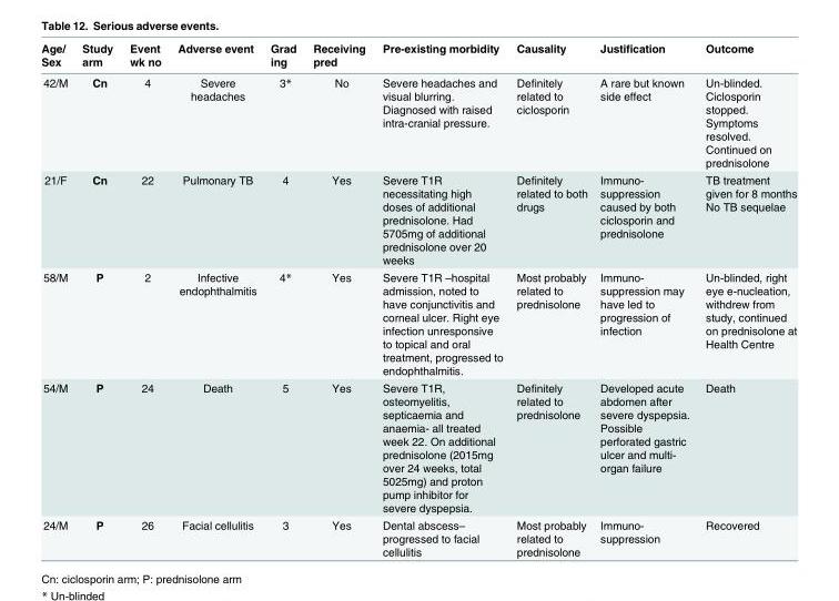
<table><thead><tr><td>Age/ Sex</td><td>Study arm</td><td>Event wk no</td><td>Adverse event</td><td>Grad ing</td><td>Receiving pred</td><td>Pre-existing morbidity</td><td>Causality</td><td>Justification</td><td>Outcome</td></tr></thead><tbody><tr><td>42/M</td><td>Cn</td><td>4</td><td>Severe headaches</td><td>3*</td><td>No</td><td>Severe headaches and visual blurring. Diagnosed with raised intra-cranial pressure.</td><td>Definitely related to ciclosporin</td><td>A rare but known side effect</td><td>Un-blinded. Ciclosporin stopped. Symptoms resolved. Continued on prednisolone</td></tr><tr><td>21/F</td><td>Cn</td><td>22</td><td>Pulmonary TB</td><td>4</td><td>Yes</td><td>Severe T1R necessitating high doses of additional prednisolone. Had 5705mg of additional prednisolone over 20 weeks</td><td>Definitely related to both drugs</td><td>Immuno- suppression caused by both ciclosporin and prednisolone</td><td>TB treatment given for 8 months No TB sequelae</td></tr><tr><td>58/M</td><td>P</td><td>2</td><td>Infective endophthalmitis</td><td>4*</td><td>Yes</td><td>Severe T1R –hospital admission, noted to have conjunctivitis and corneal ulcer. Right eye infection unresponsive to topical and oral treatment, progressed to endophthalmitis.</td><td>Most probably related to prednisolone</td><td>Immuno- suppression may have led to progression of infection</td><td>Un-blinded, right eye e-nucleation, withdrew from study, continued on prednisolone at Health Centre</td></tr><tr><td>54/M</td><td>P</td><td>24</td><td>Death</td><td>5</td><td>Yes</td><td>Severe T1R, osteomyelitis, septicaemia and anaemia- all treated week 22. On additional prednisolone (2015mg over 24 weeks, total 5025mg) and proton pump inhibitor for severe dyspepsia.</td><td>Definitely related to prednisolone</td><td>Developed acute abdomen after severe dyspepsia. Possible perforated gastric ulcer and multi- organ failure</td><td>Death</td></tr><tr><td>24/M</td><td>P</td><td>26</td><td>Facial cellulitis</td><td>3</td><td>Yes</td><td>Dental abscess– progressed to facial cellulitis</td><td>Most probably related to prednisolone</td><td>Immuno- suppression</td><td>Recovered</td></tr></tbody></table>